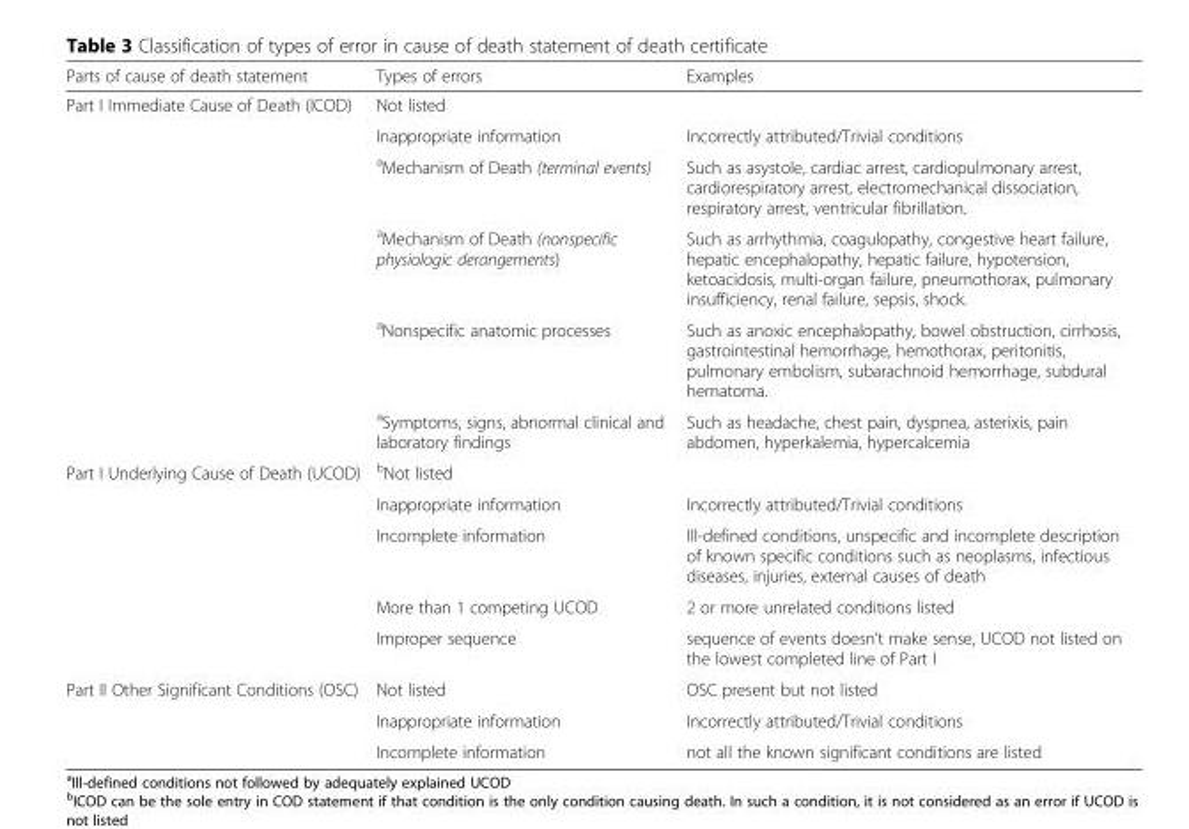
<table><thead><tr><td>Parts of cause of death statement</td><td>Types of errors</td><td>Examples</td></tr></thead><tbody><tr><td rowspan="6">Part I Immediate Cause of Death (ICOD)</td><td>Not listed</td><td></td></tr><tr><td>Inappropriate information</td><td>Incorrectly attributed/Trivial conditions</td></tr><tr><td><sup>a</sup>Mechanism of Death (terminal events)</td><td>Such as asystole, cardiac arrest, cardiopulmonary arrest, cardiorespiratory arrest, electromechanical dissociation, respiratory arrest, ventricular fibrillation.</td></tr><tr><td><sup>a</sup>Mechanism of Death (nonspecific physiologic derangements)</td><td>Such as arrhythmia, coagulopathy, congestive heart failure, hepatic encephalopathy, hepatic failure, hypotension, ketoacidosis, multi-organ failure, pneumothorax, pulmonary insufficiency, renal failure, sepsis, shock.</td></tr><tr><td><sup>a</sup>Nonspecific anatomic processes</td><td>Such as anoxic encephalopathy, bowel obstruction, cirrhosis, gastrointestinal hemorrhage, hemothorax, peritonitis, pulmonary embolism, subarachnoid hemorrhage, subdural hematoma.</td></tr><tr><td><sup>a</sup>Symptoms, signs, abnormal clinical and laboratory findings</td><td>Such as headache, chest pain, dyspnea, asterixis, pain abdomen, hyperkalemia, hypercalcemia</td></tr><tr><td rowspan="5">Part I Underlying Cause of Death (UCOD)</td><td><sup>b</sup>Not listed</td><td></td></tr><tr><td>Inappropriate information</td><td>Incorrectly attributed/Trivial conditions</td></tr><tr><td>Incomplete information</td><td>Ill-defined conditions, unspecific and incomplete description of known specific conditions such as neoplasms, infectious diseases, injuries, external causes of death</td></tr><tr><td>More than 1 competing UCOD</td><td>2 or more unrelated conditions listed</td></tr><tr><td>Improper sequence</td><td>sequence of events doesn’t make sense, UCOD not listed on the lowest completed line of Part I</td></tr><tr><td rowspan="3">Part II Other Significant Conditions (OSC)</td><td>Not listed</td><td>OSC present but not listed</td></tr><tr><td>Inappropriate information</td><td>Incorrectly attributed/Trivial conditions</td></tr><tr><td>Incomplete information</td><td>not all the known significant conditions are listed</td></tr></tbody></table>